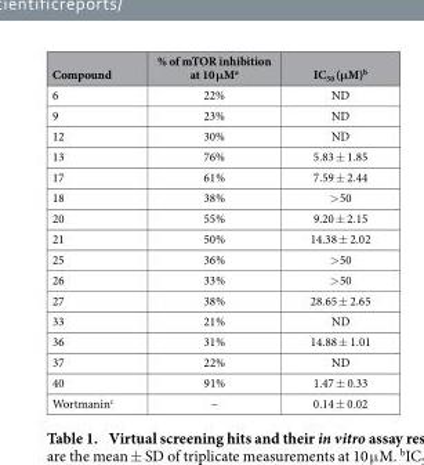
<table><thead><tr><td>Compound</td><td>% of mTOR inhibition at 10 μM<sup>a</sup></td><td>IC<sub>50</sub> (μM)<sup>b</sup></td></tr></thead><tbody><tr><td>6</td><td>22%</td><td>ND</td></tr><tr><td>9</td><td>23%</td><td>ND</td></tr><tr><td>12</td><td>30%</td><td>ND</td></tr><tr><td>13</td><td>76%</td><td>5.83 ± 1.85</td></tr><tr><td>17</td><td>61%</td><td>7.59 ± 2.44</td></tr><tr><td>18</td><td>38%</td><td>&gt; 50</td></tr><tr><td>20</td><td>55%</td><td>9.20 ± 2.15</td></tr><tr><td>21</td><td>50%</td><td>14.38 ± 2.02</td></tr><tr><td>25</td><td>36%</td><td>&gt; 50</td></tr><tr><td>26</td><td>33%</td><td>&gt; 50</td></tr><tr><td>27</td><td>38%</td><td>28.65 ± 2.65</td></tr><tr><td>33</td><td>21%</td><td>ND</td></tr><tr><td>36</td><td>31%</td><td>14.88 ± 1.01</td></tr><tr><td>37</td><td>22%</td><td>ND</td></tr><tr><td>40</td><td>91%</td><td>1.47 ± 0.33</td></tr><tr><td>Wortmanin<sup>c</sup></td><td>–</td><td>0.14 ± 0.02</td></tr></tbody></table>